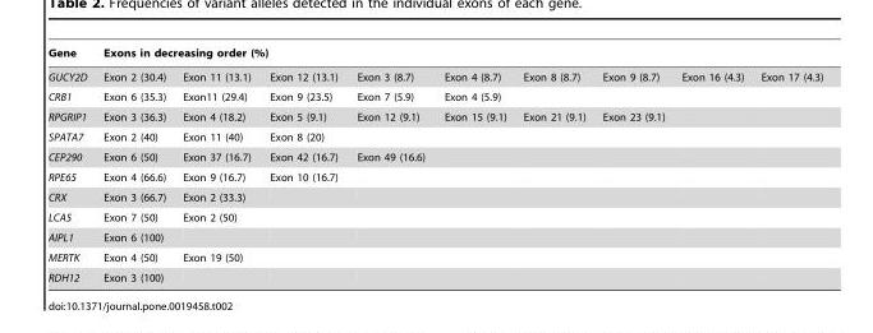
<table><thead><tr><td rowspan="2">Gene GUCY2D</td><td colspan="9">Exons in decreasing order (%)</td></tr><tr><td>Exon 2 (30.4)</td><td>Exon 11 (13.1)</td><td>Exon 12 (13.1)</td><td>Exon 3 (8.7)</td><td>Exon 4 (8.7)</td><td>Exon 8 (8.7)</td><td>Exon 9 (8.7)</td><td>Exon 16 (4.3)</td><td>Exon 17 (4.3)</td></tr></thead><tbody><tr><td>CRB1</td><td>Exon 6 (35.3)</td><td>Exon11 (29.4)</td><td>Exon 9 (23.5)</td><td>Exon 7 (5.9)</td><td>Exon 4 (5.9)</td><td></td><td></td><td></td><td></td></tr><tr><td>RPGRIP1</td><td>Exon 3 (36.3)</td><td>Exon 4 (18.2)</td><td>Exon 5 (9.1)</td><td>Exon 12 (9.1)</td><td>Exon 15 (9.1)</td><td>Exon 21 (9.1)</td><td>Exon 23 (9.1)</td><td></td><td></td></tr><tr><td>SPATA7</td><td>Exon 2 (40)</td><td>Exon 11 (40)</td><td>Exon 8 (20)</td><td></td><td></td><td></td><td></td><td></td><td></td></tr><tr><td>CEP290</td><td>Exon 6 (50)</td><td>Exon 37 (16.7)</td><td>Exon 42 (16.7)</td><td>Exon 49 (16.6)</td><td></td><td></td><td></td><td></td><td></td></tr><tr><td>RPE65</td><td>Exon 4 (66.6)</td><td>Exon 9 (16.7)</td><td>Exon 10 (16.7)</td><td></td><td></td><td></td><td></td><td></td><td></td></tr><tr><td>CRX</td><td>Exon 3 (66.7)</td><td>Exon 2 (33.3)</td><td></td><td></td><td></td><td></td><td></td><td></td><td></td></tr><tr><td>LCA5</td><td>Exon 7 (50)</td><td>Exon 2 (50)</td><td></td><td></td><td></td><td></td><td></td><td></td><td></td></tr><tr><td>AIPL1</td><td>Exon 6 (100)</td><td></td><td></td><td></td><td></td><td></td><td></td><td></td><td></td></tr><tr><td>MERTK</td><td>Exon 4 (50)</td><td>Exon 19 (50)</td><td></td><td></td><td></td><td></td><td></td><td></td><td></td></tr><tr><td>RDH12</td><td>Exon 3 (100)</td><td></td><td></td><td></td><td></td><td></td><td></td><td></td><td></td></tr></tbody></table>